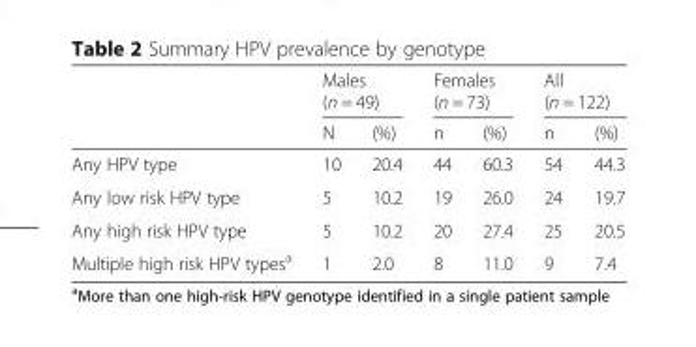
<table><thead><tr><td rowspan="3"></td><td rowspan="2" colspan="2">Males (n = 49)</td><td rowspan="2" colspan="2">Females (n = 73)</td><td rowspan="2" colspan="2">All (n = 122)</td></tr><tr></tr><tr><td>N</td><td>(%)</td><td>n</td><td>(%)</td><td>n</td><td>(%)</td></tr></thead><tbody><tr><td>Any HPV type</td><td>10</td><td>20.4</td><td>44</td><td>60.3</td><td>54</td><td>44.3</td></tr><tr><td>Any low risk HPV type</td><td>5</td><td>10.2</td><td>19</td><td>26.0</td><td>24</td><td>19.7</td></tr><tr><td>Any high risk HPV type</td><td>5</td><td>10.2</td><td>20</td><td>27.4</td><td>25</td><td>20.5</td></tr><tr><td>Multiple high risk HPV types<sup>a</sup></td><td>1</td><td>2.0</td><td>8</td><td>11.0</td><td>9</td><td>7.4</td></tr></tbody></table>